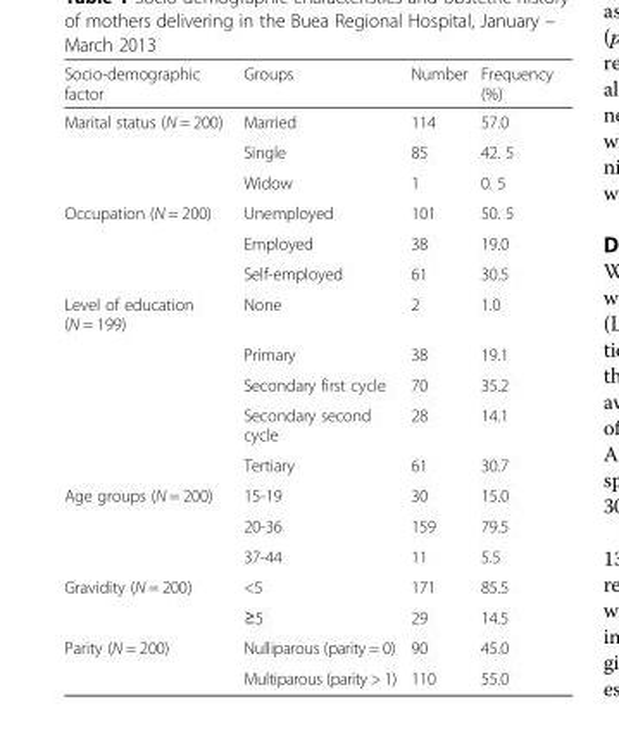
<table><thead><tr><td>Socio-demographic factor</td><td>Groups</td><td>Number</td><td>Frequency (%)</td></tr></thead><tbody><tr><td rowspan="3">Marital status (N = 200)</td><td>Married</td><td>114</td><td>57.0</td></tr><tr><td>Single</td><td>85</td><td>42. 5</td></tr><tr><td>Widow</td><td>1</td><td>0. 5</td></tr><tr><td rowspan="3">Occupation (N = 200)</td><td>Unemployed</td><td>101</td><td>50. 5</td></tr><tr><td>Employed</td><td>38</td><td>19.0</td></tr><tr><td>Self-employed</td><td>61</td><td>30.5</td></tr><tr><td rowspan="5">Level of education (N = 199)</td><td>None</td><td>2</td><td>1.0</td></tr><tr><td>Primary</td><td>38</td><td>19.1</td></tr><tr><td>Secondary first cycle</td><td>70</td><td>35.2</td></tr><tr><td>Secondary second cycle</td><td>28</td><td>14.1</td></tr><tr><td>Tertiary</td><td>61</td><td>30.7</td></tr><tr><td rowspan="3">Age groups (N = 200)</td><td>15-19</td><td>30</td><td>15.0</td></tr><tr><td>20-36</td><td>159</td><td>79.5</td></tr><tr><td>37-44</td><td>11</td><td>5.5</td></tr><tr><td rowspan="2">Gravidity (N = 200)</td><td>&lt;5</td><td>171</td><td>85.5</td></tr><tr><td>≥5</td><td>29</td><td>14.5</td></tr><tr><td rowspan="2">Parity (N = 200)</td><td>Nulliparous (parity = 0)</td><td>90</td><td>45.0</td></tr><tr><td>Multiparous (parity &gt; 1)</td><td>110</td><td>55.0</td></tr></tbody></table>